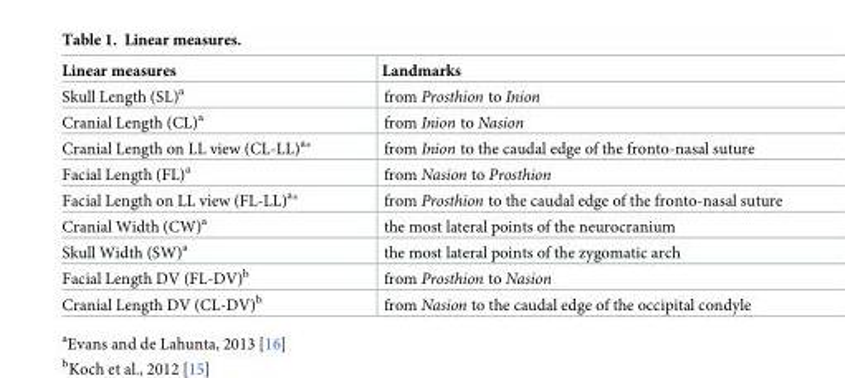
<table><thead><tr><td>Linear measures</td><td>Landmarks</td></tr></thead><tbody><tr><td>Skull Length (SL)<sup>a</sup></td><td>from Prosthion to Inion</td></tr><tr><td>Cranial Length (CL)<sup>a</sup></td><td>from Inion to Nasion</td></tr><tr><td>Cranial Length on LL view (CL-LL)<sup>a</sup>*</td><td>from Inion to the caudal edge of the fronto-nasal suture</td></tr><tr><td>Facial Length (FL)<sup>a</sup></td><td>from Nasion to Prosthion</td></tr><tr><td>Facial Length on LL view (FL-LL)<sup>a</sup>*</td><td>from Prosthion to the caudal edge of the fronto-nasal suture</td></tr><tr><td>Cranial Width (CW)<sup>a</sup></td><td>the most lateral points of the neurocranium</td></tr><tr><td>Skull Width (SW)<sup>a</sup></td><td>the most lateral points of the zygomatic arch</td></tr><tr><td>Facial Length DV (FL-DV)<sup>b</sup></td><td>from Prosthion to Nasion</td></tr><tr><td>Cranial Length DV (CL-DV)<sup>b</sup></td><td>from Nasion to the caudal edge of the occipital condyle</td></tr></tbody></table>